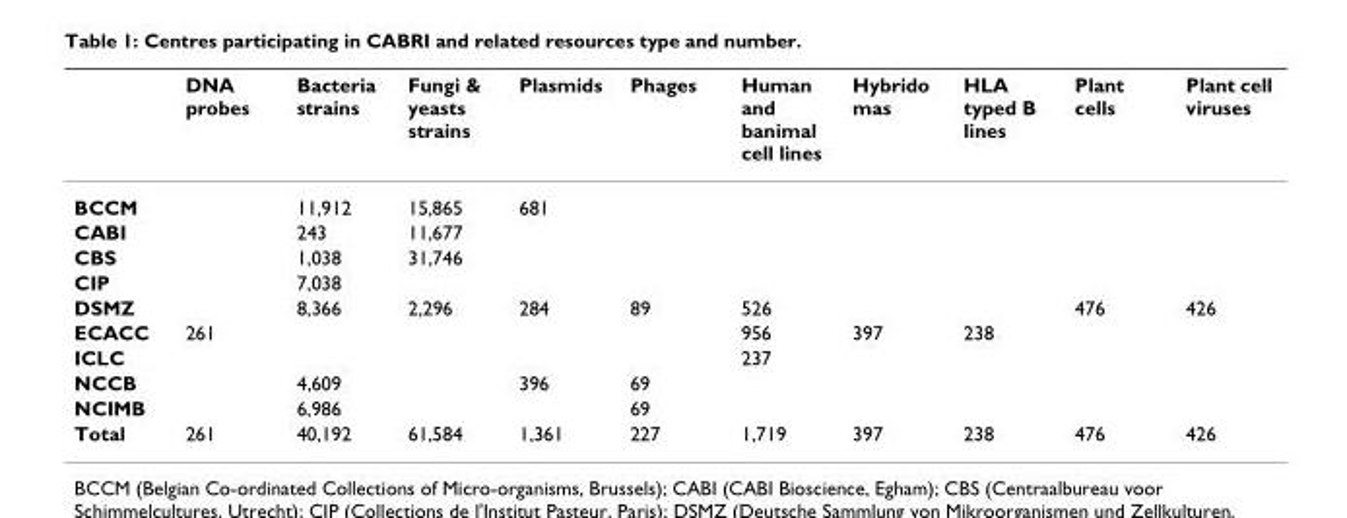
<table><thead><tr><td></td><td>DNA probes</td><td>Bacteria strains</td><td>Fungi &amp; yeasts strains</td><td>Plasmids</td><td>Phages</td><td>Human and banimal cell lines</td><td>Hybrido mas</td><td>HLA typed B lines</td><td>Plant cells</td><td>Plant cell viruses</td></tr></thead><tbody><tr><td>BCCM</td><td></td><td>11,912</td><td>15,865</td><td>681</td><td></td><td></td><td></td><td></td><td></td><td></td></tr><tr><td>CABI</td><td></td><td>243</td><td>11,677</td><td></td><td></td><td></td><td></td><td></td><td></td><td></td></tr><tr><td>CBS</td><td></td><td>1,038</td><td>31,746</td><td></td><td></td><td></td><td></td><td></td><td></td><td></td></tr><tr><td>CIP</td><td></td><td>7,038</td><td></td><td></td><td></td><td></td><td></td><td></td><td></td><td></td></tr><tr><td>DSMZ</td><td></td><td>8,366</td><td>2,296</td><td>284</td><td>89</td><td>526</td><td></td><td></td><td>476</td><td>426</td></tr><tr><td>ECACC</td><td>261</td><td></td><td></td><td></td><td></td><td>956</td><td>397</td><td>238</td><td></td><td></td></tr><tr><td>ICLC</td><td></td><td></td><td></td><td></td><td></td><td>237</td><td></td><td></td><td></td><td></td></tr><tr><td>NCCB</td><td></td><td>4,609</td><td></td><td>396</td><td>69</td><td></td><td></td><td></td><td></td><td></td></tr><tr><td>NCIMB</td><td></td><td>6,986</td><td></td><td></td><td>69</td><td></td><td></td><td></td><td></td><td></td></tr><tr><td>Total</td><td>261</td><td>40,192</td><td>61,584</td><td>1,361</td><td>227</td><td>1,719</td><td>397</td><td>238</td><td>476</td><td>426</td></tr></tbody></table>